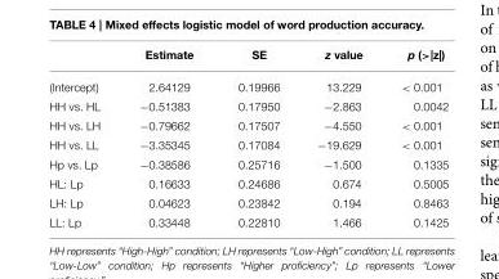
<table><thead><tr><td></td><td>Estimate</td><td>SE</td><td>z value</td><td>p (&gt;|z|)</td></tr></thead><tbody><tr><td>(Intercept)</td><td>2.64129</td><td>0.19966</td><td>13.229</td><td>&lt; 0.001</td></tr><tr><td>HH vs. HL</td><td>−0.51383</td><td>0.17950</td><td>−2.863</td><td>0.0042</td></tr><tr><td>HH vs. LH</td><td>−0.79662</td><td>0.17507</td><td>−4.550</td><td>&lt; 0.001</td></tr><tr><td>HH vs. LL</td><td>−3.35345</td><td>0.17084</td><td>−19.629</td><td>&lt; 0.001</td></tr><tr><td>Hp vs. Lp</td><td>−0.38586</td><td>0.25716</td><td>−1.500</td><td>0.1335</td></tr><tr><td>HL: Lp</td><td>0.16633</td><td>0.24686</td><td>0.674</td><td>0.5005</td></tr><tr><td>LH: Lp</td><td>0.04623</td><td>0.23842</td><td>0.194</td><td>0.8463</td></tr><tr><td>LL: Lp</td><td>0.33448</td><td>0.22810</td><td>1.466</td><td>0.1425</td></tr></tbody></table>